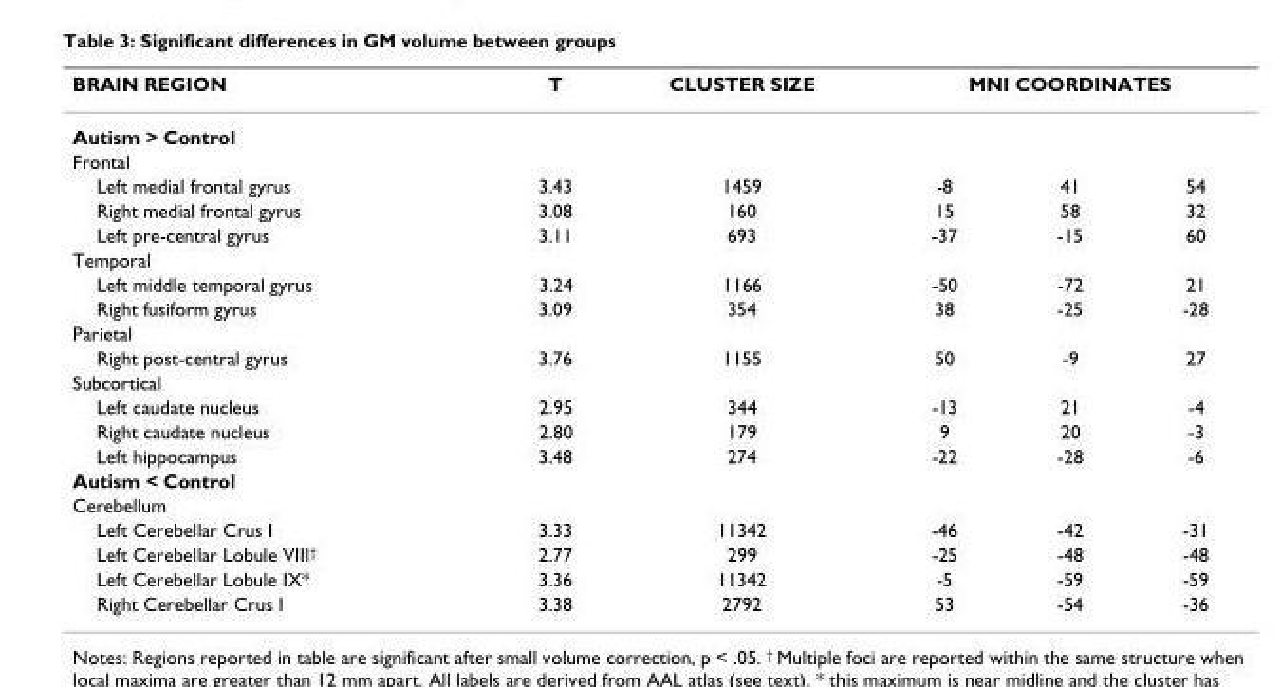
<table><thead><tr><td rowspan="2">BRAIN REGION Autism &gt; Control</td><td rowspan="2">T</td><td rowspan="2">CLUSTER SIZE</td><td colspan="3">MNI COORDINATES</td></tr><tr><td></td><td></td><td></td></tr></thead><tbody><tr><td colspan="6">Frontal</td></tr><tr><td>Left medial frontal gyrus</td><td>3.43</td><td>1459</td><td>-8</td><td>41</td><td>54</td></tr><tr><td>Right medial frontal gyrus</td><td>3.08</td><td>160</td><td>15</td><td>58</td><td>32</td></tr><tr><td>Left pre-central gyrus</td><td>3.11</td><td>693</td><td>-37</td><td>-15</td><td>60</td></tr><tr><td colspan="6">Temporal</td></tr><tr><td>Left middle temporal gyrus</td><td>3.24</td><td>1166</td><td>-50</td><td>-72</td><td>21</td></tr><tr><td>Right fusiform gyrus</td><td>3.09</td><td>354</td><td>38</td><td>-25</td><td>-28</td></tr><tr><td colspan="6">Parietal</td></tr><tr><td>Right post-central gyrus</td><td>3.76</td><td>1155</td><td>50</td><td>-9</td><td>27</td></tr><tr><td colspan="6">Subcortical</td></tr><tr><td>Left caudate nucleus</td><td>2.95</td><td>344</td><td>-13</td><td>21</td><td>-4</td></tr><tr><td>Right caudate nucleus</td><td>2.80</td><td>179</td><td>9</td><td>20</td><td>-3</td></tr><tr><td>Left hippocampus</td><td>3.48</td><td>274</td><td>-22</td><td>-28</td><td>-6</td></tr><tr><td colspan="6">Autism &lt; Control</td></tr><tr><td colspan="6">Cerebellum</td></tr><tr><td>Left Cerebellar Crus I</td><td>3.33</td><td>11342</td><td>-46</td><td>-42</td><td>-31</td></tr><tr><td>Left Cerebellar Lobule VIII<sup>†</sup></td><td>2.77</td><td>299</td><td>-25</td><td>-48</td><td>-48</td></tr><tr><td>Left Cerebellar Lobule IX*</td><td>3.36</td><td>11342</td><td>-5</td><td>-59</td><td>-59</td></tr><tr><td>Right Cerebellar Crus I</td><td>3.38</td><td>2792</td><td>53</td><td>-54</td><td>-36</td></tr></tbody></table>